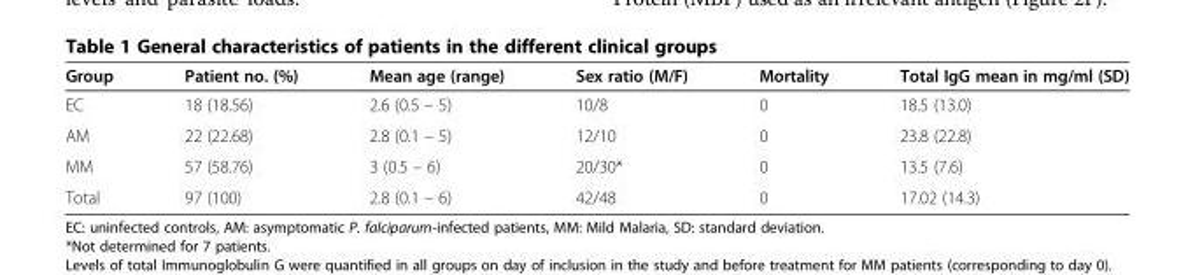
<table><thead><tr><td>Group</td><td>Patient no. (%)</td><td>Mean age (range)</td><td>Sex ratio (M/F)</td><td>Mortality</td><td>Total IgG mean in mg/ml (SD)</td></tr></thead><tbody><tr><td>EC</td><td>18 (18.56)</td><td>2.6 (0.5 – 5)</td><td>10/8</td><td>0</td><td>18.5 (13.0)</td></tr><tr><td>AM</td><td>22 (22.68)</td><td>2.8 (0.1 – 5)</td><td>12/10</td><td>0</td><td>23.8 (22.8)</td></tr><tr><td>MM</td><td>57 (58.76)</td><td>3 (0.5 – 6)</td><td>20/30*</td><td>0</td><td>13.5 (7.6)</td></tr><tr><td>Total</td><td>97 (100)</td><td>2.8 (0.1 – 6)</td><td>42/48</td><td>0</td><td>17.02 (14.3)</td></tr></tbody></table>